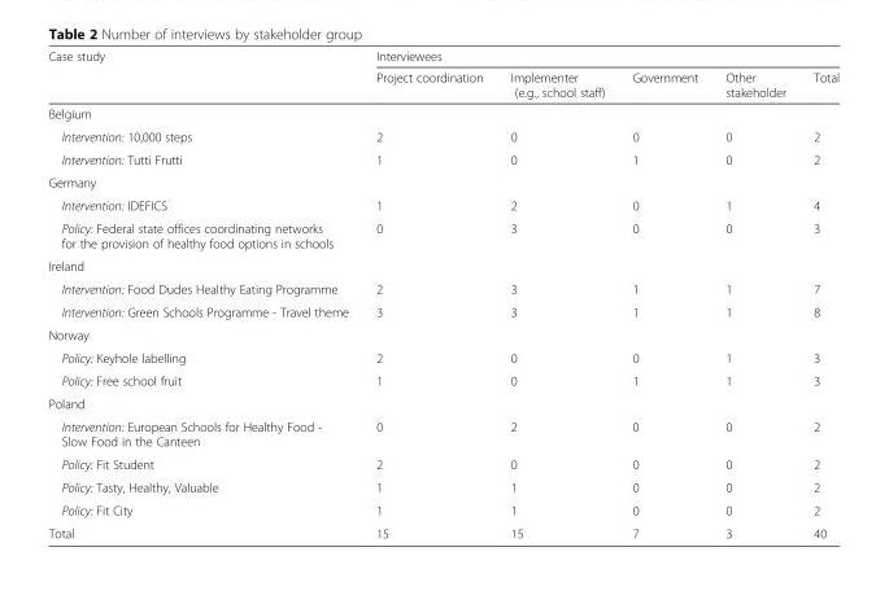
<table><thead><tr><td rowspan="2">Case study</td><td colspan="5">Interviewees</td></tr><tr><td>Project coordination</td><td>Implementer (e.g., school staff)</td><td>Government</td><td>Other stakeholder</td><td>Total</td></tr></thead><tbody><tr><td colspan="6">Belgium</td></tr><tr><td>Intervention: 10,000 steps</td><td>2</td><td>0</td><td>0</td><td>0</td><td>2</td></tr><tr><td>Intervention: Tutti Frutti</td><td>1</td><td>0</td><td>1</td><td>0</td><td>2</td></tr><tr><td colspan="6">Germany</td></tr><tr><td>Intervention: IDEFICS</td><td>1</td><td>2</td><td>0</td><td>1</td><td>4</td></tr><tr><td>Policy: Federal state offices coordinating networks for the provision of healthy food options in schools</td><td>0</td><td>3</td><td>0</td><td>0</td><td>3</td></tr><tr><td colspan="6">Ireland</td></tr><tr><td>Intervention: Food Dudes Healthy Eating Programme</td><td>2</td><td>3</td><td>1</td><td>1</td><td>7</td></tr><tr><td>Intervention: Green Schools Programme - Travel theme</td><td>3</td><td>3</td><td>1</td><td>1</td><td>8</td></tr><tr><td colspan="6">Norway</td></tr><tr><td>Policy: Keyhole labelling</td><td>2</td><td>0</td><td>0</td><td>1</td><td>3</td></tr><tr><td>Policy: Free school fruit</td><td>1</td><td>0</td><td>1</td><td>1</td><td>3</td></tr><tr><td colspan="6">Poland</td></tr><tr><td>Intervention: European Schools for Healthy Food - Slow Food in the Canteen</td><td>0</td><td>2</td><td>0</td><td>0</td><td>2</td></tr><tr><td>Policy: Fit Student</td><td>2</td><td>0</td><td>0</td><td>0</td><td>2</td></tr><tr><td>Policy: Tasty, Healthy, Valuable</td><td>1</td><td>1</td><td>0</td><td>0</td><td>2</td></tr><tr><td>Policy: Fit City</td><td>1</td><td>1</td><td>0</td><td>0</td><td>2</td></tr><tr><td>Total</td><td>15</td><td>15</td><td>7</td><td>3</td><td>40</td></tr></tbody></table>